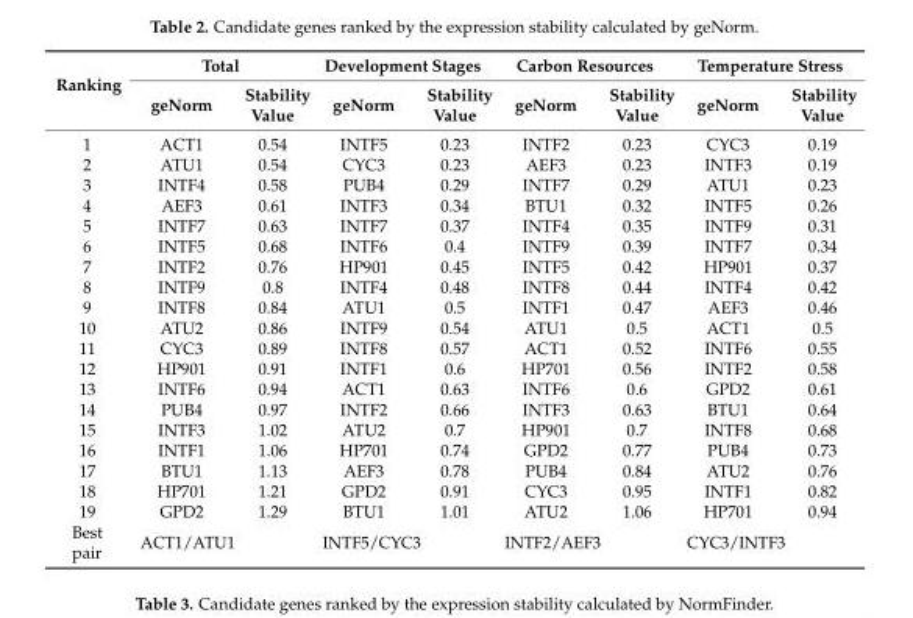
<table><thead><tr><td rowspan="2">Ranking</td><td colspan="2">Total</td><td colspan="2">Development Stages</td><td colspan="2">Carbon Resources</td><td colspan="2">Temperature Stress</td></tr><tr><td>geNorm</td><td>Stability Value</td><td>geNorm</td><td>Stability Value</td><td>geNorm</td><td>Stability Value</td><td>geNorm</td><td>Stability Value</td></tr></thead><tbody><tr><td>1</td><td>ACT1</td><td>0.54</td><td>INTF5</td><td>0.23</td><td>INTF2</td><td>0.23</td><td>CYC3</td><td>0.19</td></tr><tr><td>2</td><td>ATU1</td><td>0.54</td><td>CYC3</td><td>0.23</td><td>AEF3</td><td>0.23</td><td>INTF3</td><td>0.19</td></tr><tr><td>3</td><td>INTF4</td><td>0.58</td><td>PUB4</td><td>0.29</td><td>INTF7</td><td>0.29</td><td>ATU1</td><td>0.23</td></tr><tr><td>4</td><td>AEF3</td><td>0.61</td><td>INTF3</td><td>0.34</td><td>BTU1</td><td>0.32</td><td>INTF5</td><td>0.26</td></tr><tr><td>5</td><td>INTF7</td><td>0.63</td><td>INTF7</td><td>0.37</td><td>INTF4</td><td>0.35</td><td>INTF9</td><td>0.31</td></tr><tr><td>6</td><td>INTF5</td><td>0.68</td><td>INTF6</td><td>0.4</td><td>INTF9</td><td>0.39</td><td>INTF7</td><td>0.34</td></tr><tr><td>7</td><td>INTF2</td><td>0.76</td><td>HP901</td><td>0.45</td><td>INTF5</td><td>0.42</td><td>HP901</td><td>0.37</td></tr><tr><td>8</td><td>INTF9</td><td>0.8</td><td>INTF4</td><td>0.48</td><td>INTF8</td><td>0.44</td><td>INTF4</td><td>0.42</td></tr><tr><td>9</td><td>INTF8</td><td>0.84</td><td>ATU1</td><td>0.5</td><td>INTF1</td><td>0.47</td><td>AEF3</td><td>0.46</td></tr><tr><td>10</td><td>ATU2</td><td>0.86</td><td>INTF9</td><td>0.54</td><td>ATU1</td><td>0.5</td><td>ACT1</td><td>0.5</td></tr><tr><td>11</td><td>CYC3</td><td>0.89</td><td>INTF8</td><td>0.57</td><td>ACT1</td><td>0.52</td><td>INTF6</td><td>0.55</td></tr><tr><td>12</td><td>HP901</td><td>0.91</td><td>INTF1</td><td>0.6</td><td>HP701</td><td>0.56</td><td>INTF2</td><td>0.58</td></tr><tr><td>13</td><td>INTF6</td><td>0.94</td><td>ACT1</td><td>0.63</td><td>INTF6</td><td>0.6</td><td>GPD2</td><td>0.61</td></tr><tr><td>14</td><td>PUB4</td><td>0.97</td><td>INTF2</td><td>0.66</td><td>INTF3</td><td>0.63</td><td>BTU1</td><td>0.64</td></tr><tr><td>15</td><td>INTF3</td><td>1.02</td><td>ATU2</td><td>0.7</td><td>HP901</td><td>0.7</td><td>INTF8</td><td>0.68</td></tr><tr><td>16</td><td>INTF1</td><td>1.06</td><td>HP701</td><td>0.74</td><td>GPD2</td><td>0.77</td><td>PUB4</td><td>0.73</td></tr><tr><td>17</td><td>BTU1</td><td>1.13</td><td>AEF3</td><td>0.78</td><td>PUB4</td><td>0.84</td><td>ATU2</td><td>0.76</td></tr><tr><td>18</td><td>HP701</td><td>1.21</td><td>GPD2</td><td>0.91</td><td>CYC3</td><td>0.95</td><td>INTF1</td><td>0.82</td></tr><tr><td>19</td><td>GPD2</td><td>1.29</td><td>BTU1</td><td>1.01</td><td>ATU2</td><td>1.06</td><td>HP701</td><td>0.94</td></tr><tr><td>Best pair</td><td>ACT1/ATU1</td><td></td><td>INTF5/CYC3</td><td></td><td>INTF2/AEF3</td><td></td><td>CYC3/INTF3</td><td></td></tr></tbody></table>